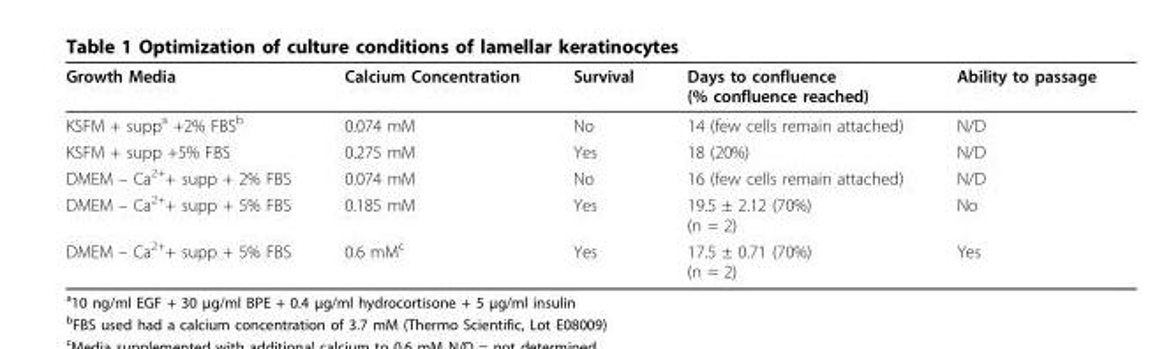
<table><thead><tr><td>Growth Media</td><td>Calcium Concentration</td><td>Survival</td><td>Days to confluence (% confluence reached)</td><td>Ability to passage</td></tr></thead><tbody><tr><td>KSFM + supp<sup>a</sup> +2% FBS<sup>b</sup></td><td>0.074 mM</td><td>No</td><td>14 (few cells remain attached)</td><td>N/D</td></tr><tr><td>KSFM + supp +5% FBS</td><td>0.275 mM</td><td>Yes</td><td>18 (20%)</td><td>N/D</td></tr><tr><td>DMEM – Ca2++ supp + 2% FBS</td><td>0.074 mM</td><td>No</td><td>16 (few cells remain attached)</td><td>N/D</td></tr><tr><td>DMEM – Ca2++ supp + 5% FBS</td><td>0.185 mM</td><td>Yes</td><td>19.5 ± 2.12 (70%) (n = 2)</td><td>No</td></tr><tr><td>DMEM – Ca2++ supp + 5% FBS</td><td>0.6 mM<sup>c</sup></td><td>Yes</td><td>17.5 ± 0.71 (70%) (n = 2)</td><td>Yes</td></tr></tbody></table>